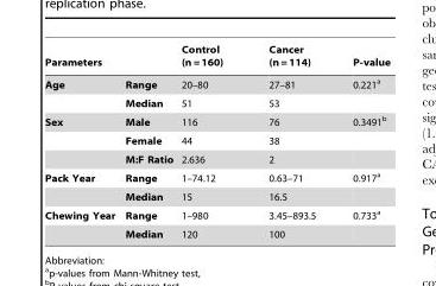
<table><thead><tr><td colspan="2">Parameters</td><td rowspan="2">Control (n = 160) 20–80</td><td rowspan="2">Cancer (n = 114) 27–81</td><td rowspan="2">P-value 0.221<sup>a</sup></td></tr><tr><td>Age</td><td>Range</td></tr></thead><tbody><tr><td></td><td>Median</td><td>51</td><td>53</td><td></td></tr><tr><td rowspan="3">Sex</td><td>Male</td><td>116</td><td>76</td><td>0.3491<sup>b</sup></td></tr><tr><td>Female</td><td>44</td><td>38</td><td></td></tr><tr><td>M:F Ratio</td><td>2.636</td><td>2</td><td></td></tr><tr><td rowspan="2">Pack Year</td><td>Range</td><td>1–74.12</td><td>0.63–71</td><td>0.917<sup>a</sup></td></tr><tr><td>Median</td><td>15</td><td>16.5</td><td></td></tr><tr><td rowspan="2">Chewing Year</td><td>Range</td><td>1–980</td><td>3.45–893.5</td><td>0.733<sup>a</sup></td></tr><tr><td>Median</td><td>120</td><td>100</td><td></td></tr></tbody></table>